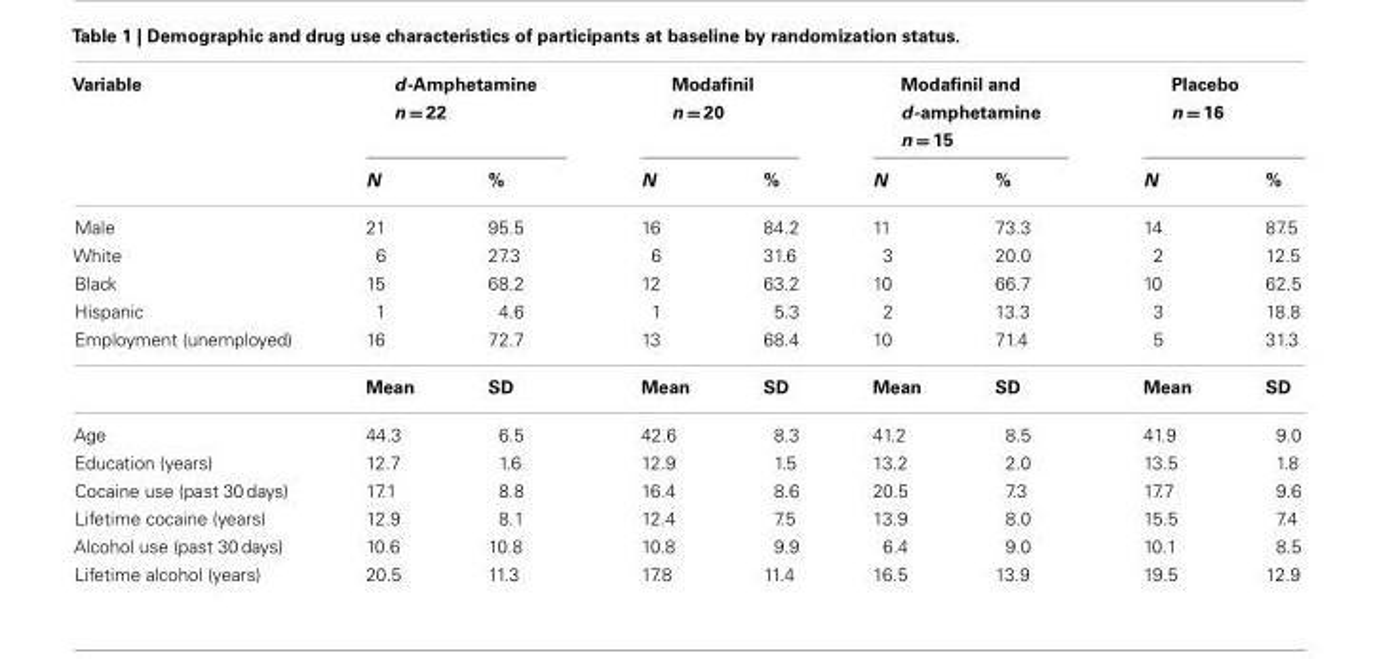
<table><thead><tr><td rowspan="2">Variable</td><td colspan="2">d-Amphetamine n = 22</td><td colspan="2">Modafinil n = 20</td><td colspan="2">Modafinil and d-amphetamine n = 15</td><td colspan="2">Placebo n = 16</td></tr><tr><td>N</td><td>%</td><td>N</td><td>%</td><td>N</td><td>%</td><td>N</td><td>%</td></tr></thead><tbody><tr><td>Male</td><td>21</td><td>95.5</td><td>16</td><td>84.2</td><td>11</td><td>73.3</td><td>14</td><td>87.5</td></tr><tr><td>White</td><td>6</td><td>27.3</td><td>6</td><td>31.6</td><td>3</td><td>20.0</td><td>2</td><td>12.5</td></tr><tr><td>Black</td><td>15</td><td>68.2</td><td>12</td><td>63.2</td><td>10</td><td>66.7</td><td>10</td><td>62.5</td></tr><tr><td>Hispanic</td><td>1</td><td>4.6</td><td>1</td><td>5.3</td><td>2</td><td>13.3</td><td>3</td><td>18.8</td></tr><tr><td rowspan="2">Employment (unemployed)</td><td>16</td><td>72.7</td><td>13</td><td>68.4</td><td>10</td><td>71.4</td><td>5</td><td>31.3</td></tr><tr><td>Mean</td><td>SD</td><td>Mean</td><td>SD</td><td>Mean</td><td>SD</td><td>Mean</td><td>SD</td></tr><tr><td>Age</td><td>44.3</td><td>6.5</td><td>42.6</td><td>8.3</td><td>41.2</td><td>8.5</td><td>41.9</td><td>9.0</td></tr><tr><td>Education (years)</td><td>12.7</td><td>1.6</td><td>12.9</td><td>1.5</td><td>13.2</td><td>2.0</td><td>13.5</td><td>1.8</td></tr><tr><td>Cocaine use (past 30 days)</td><td>17.1</td><td>8.8</td><td>16.4</td><td>8.6</td><td>20.5</td><td>7.3</td><td>17.7</td><td>9.6</td></tr><tr><td>Lifetime cocaine (years)</td><td>12.9</td><td>8.1</td><td>12.4</td><td>7.5</td><td>13.9</td><td>8.0</td><td>15.5</td><td>7.4</td></tr><tr><td>Alcohol use (past 30 days)</td><td>10.6</td><td>10.8</td><td>10.8</td><td>9.9</td><td>6.4</td><td>9.0</td><td>10.1</td><td>8.5</td></tr><tr><td>Lifetime alcohol (years)</td><td>20.5</td><td>11.3</td><td>17.8</td><td>11.4</td><td>16.5</td><td>13.9</td><td>19.5</td><td>12.9</td></tr></tbody></table>